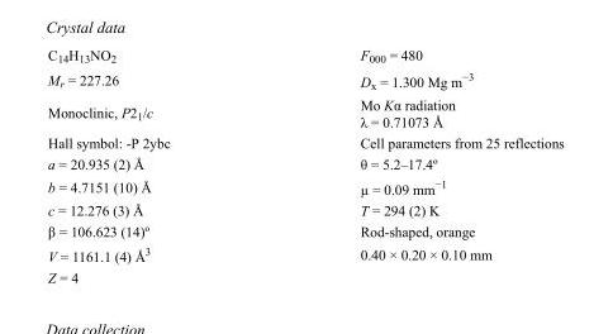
<table><tbody><tr><td>C<sub>14</sub>H<sub>13</sub>NO<sub>2</sub></td><td>F<sub>000</sub> = 480</td></tr><tr><td>M<sub>r</sub> = 227.26</td><td>D<sub>x</sub> = 1.300 Mg m<sup>−3</sup></td></tr><tr><td>Monoclinic, P2<sub>1</sub>/c</td><td>Mo Kα radiation λ = 0.71073 Å</td></tr><tr><td>Hall symbol: -P 2ybc</td><td>Cell parameters from 25 reflections</td></tr><tr><td>a = 20.935 (2) Å</td><td>θ = 5.2–17.4º</td></tr><tr><td>b = 4.7151 (10) Å</td><td>µ = 0.09 mm<sup>−1</sup></td></tr><tr><td>c = 12.276 (3) Å</td><td>T = 294 (2) K</td></tr><tr><td>β = 106.623 (14)º</td><td>Rod-shaped, orange</td></tr><tr><td>V = 1161.1 (4) Å<sup>3</sup></td><td>0.40 × 0.20 × 0.10 mm</td></tr><tr><td>Z = 4</td><td></td></tr></tbody></table>